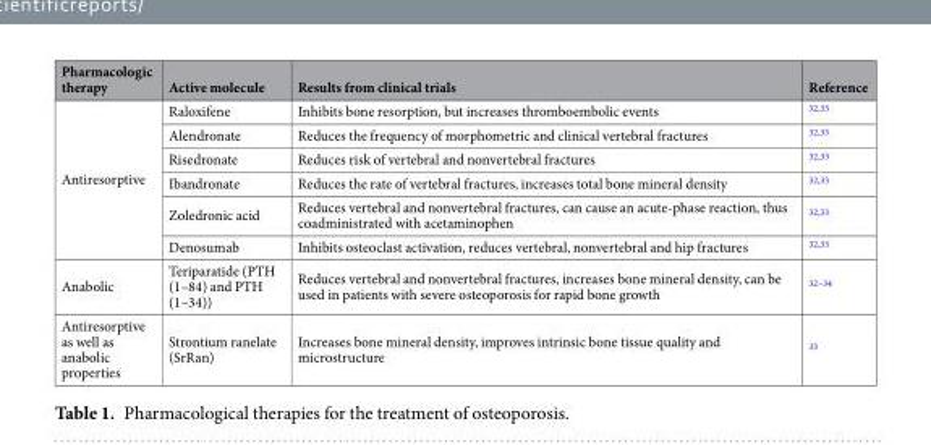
<table><thead><tr><td>Pharmacologic therapy</td><td>Active molecule</td><td>Results from clinical trials</td><td>Reference</td></tr></thead><tbody><tr><td rowspan="6">Antiresorptive</td><td>Raloxifene</td><td>Inhibits bone resorption, but increases thromboembolic events</td><td><sup>32,33</sup></td></tr><tr><td>Alendronate</td><td>Reduces the frequency of morphometric and clinical vertebral fractures</td><td><sup>32,33</sup></td></tr><tr><td>Risedronate</td><td>Reduces risk of vertebral and nonvertebral fractures</td><td><sup>32,33</sup></td></tr><tr><td>Ibandronate</td><td>Reduces the rate of vertebral fractures, increases total bone mineral density</td><td><sup>32,33</sup></td></tr><tr><td>Zoledronic acid</td><td>Reduces vertebral and nonvertebral fractures, can cause an acute-phase reaction, thus coadministrated with acetaminophen</td><td><sup>32,33</sup></td></tr><tr><td>Denosumab</td><td>Inhibits osteoclast activation, reduces vertebral, nonvertebral and hip fractures</td><td><sup>32,33</sup></td></tr><tr><td>Anabolic</td><td>Teriparatide (PTH (1–84) and PTH (1–34))</td><td>Reduces vertebral and nonvertebral fractures, increases bone mineral density, can be used in patients with severe osteoporosis for rapid bone growth</td><td><sup>32–34</sup></td></tr><tr><td>Antiresorptive as well as anabolic properties</td><td>Strontium ranelate (SrRan)</td><td>Increases bone mineral density, improves intrinsic bone tissue quality and microstructure</td><td><sup>33</sup></td></tr></tbody></table>